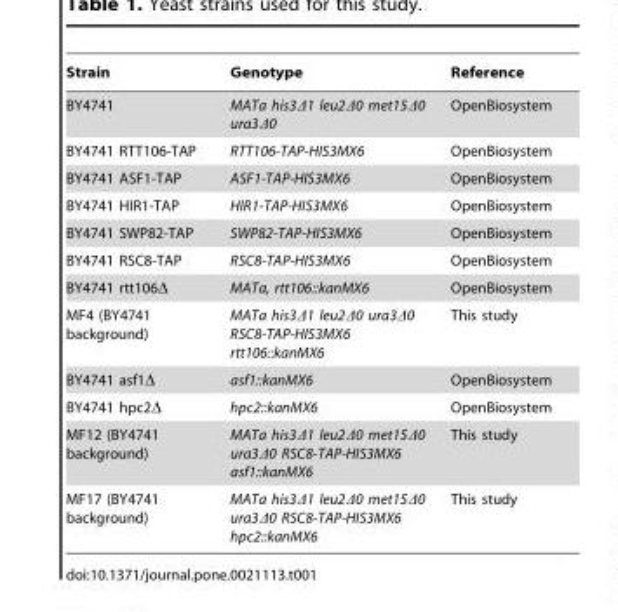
<table><thead><tr><td>Strain</td><td>Genotype</td><td>Reference</td></tr></thead><tbody><tr><td>BY4741</td><td>MATa his3Δ1 leu2Δ0 met15Δ0 ura3Δ0</td><td>OpenBiosystem</td></tr><tr><td>BY4741 RTT106-TAP</td><td>RTT106-TAP-HIS3MX6</td><td>OpenBiosystem</td></tr><tr><td>BY4741 ASF1-TAP</td><td>ASF1-TAP-HIS3MX6</td><td>OpenBiosystem</td></tr><tr><td>BY4741 HIR1-TAP</td><td>HIR1-TAP-HIS3MX6</td><td>OpenBiosystem</td></tr><tr><td>BY4741 SWP82-TAP</td><td>SWP82-TAP-HIS3MX6</td><td>OpenBiosystem</td></tr><tr><td>BY4741 RSC8-TAP</td><td>RSC8-TAP-HIS3MX6</td><td>OpenBiosystem</td></tr><tr><td>BY4741 rtt106Δ</td><td>MATa, rtt106::kanMX6</td><td>OpenBiosystem</td></tr><tr><td>MF4 (BY4741 background)</td><td>MATa his3Δ1 leu2Δ0 ura3Δ0 RSC8-TAP-HIS3MX6 rtt106::kanMX6</td><td>This study</td></tr><tr><td>BY4741 asf1Δ</td><td>asf1::kanMX6</td><td>OpenBiosystem</td></tr><tr><td>BY4741 hpc2Δ</td><td>hpc2::kanMX6</td><td>OpenBiosystem</td></tr><tr><td>MF12 (BY4741 background)</td><td>MATa his3Δ1 leu2Δ0 met15Δ0 ura3Δ0 RSC8-TAP-HIS3MX6 asf1::kanMX6</td><td>This study</td></tr><tr><td>MF17 (BY4741 background)</td><td>MATa his3Δ1 leu2Δ0 met15Δ0 ura3Δ0 RSC8-TAP-HIS3MX6 hpc2::kanMX6</td><td>This study</td></tr></tbody></table>